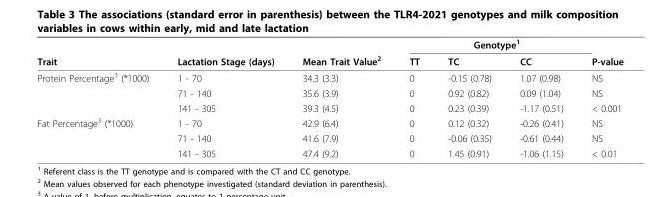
<table><thead><tr><td rowspan="2">Trait</td><td rowspan="2">Lactation Stage (days)</td><td rowspan="2">Mean Trait Value<sup>2</sup></td><td colspan="3">Genotype<sup>1</sup></td><td rowspan="2">P-value</td></tr><tr><td>TT</td><td>TC</td><td>CC</td></tr></thead><tbody><tr><td rowspan="3">Protein Percentage<sup>3</sup> (*1000)</td><td>1 - 70</td><td>34.3 (3.3)</td><td>0</td><td>-0.15 (0.78)</td><td>1.07 (0.98)</td><td>NS</td></tr><tr><td>71 - 140</td><td>35.6 (3.9)</td><td>0</td><td>0.92 (0.82)</td><td>0.09 (1.04)</td><td>NS</td></tr><tr><td>141 - 305</td><td>39.3 (4.5)</td><td>0</td><td>0.23 (0.39)</td><td>-1.17 (0.51)</td><td>&lt; 0.001</td></tr><tr><td rowspan="3">Fat Percentage<sup>3</sup> (*1000)</td><td>1 - 70</td><td>42.9 (6.4)</td><td>0</td><td>0.12 (0.32)</td><td>-0.26 (0.41)</td><td>NS</td></tr><tr><td>71 - 140</td><td>41.6 (7.9)</td><td>0</td><td>-0.06 (0.35)</td><td>-0.61 (0.44)</td><td>NS</td></tr><tr><td>141 - 305</td><td>47.4 (9.2)</td><td>0</td><td>1.45 (0.91)</td><td>-1.06 (1.15)</td><td>&lt; 0.01</td></tr></tbody></table>